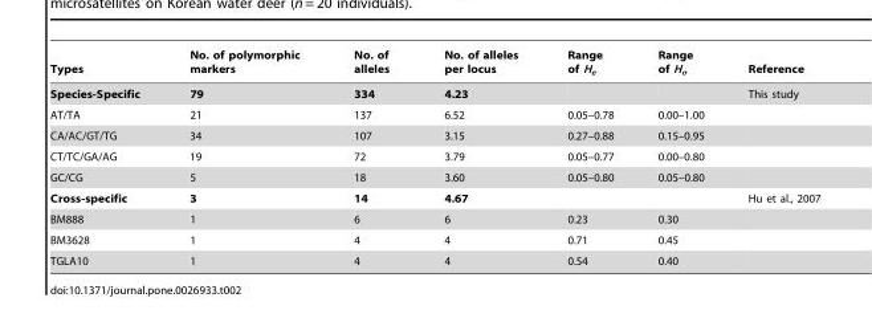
<table><thead><tr><td>Types</td><td>No. of polymorphic markers</td><td>No. of alleles</td><td>No. of alleles per locus</td><td>Range of H<sub>e</sub></td><td>Range of H<sub>o</sub></td><td>Reference</td></tr></thead><tbody><tr><td>Species-Specific</td><td>79</td><td>334</td><td>4.23</td><td></td><td></td><td>This study</td></tr><tr><td>AT/TA</td><td>21</td><td>137</td><td>6.52</td><td>0.05–0.78</td><td>0.00–1.00</td><td></td></tr><tr><td>CA/AC/GT/TG</td><td>34</td><td>107</td><td>3.15</td><td>0.27–0.88</td><td>0.15–0.95</td><td></td></tr><tr><td>CT/TC/GA/AG</td><td>19</td><td>72</td><td>3.79</td><td>0.05–0.77</td><td>0.00–0.80</td><td></td></tr><tr><td>GC/CG</td><td>5</td><td>18</td><td>3.60</td><td>0.05–0.80</td><td>0.05–0.80</td><td></td></tr><tr><td>Cross-specific</td><td>3</td><td>14</td><td>4.67</td><td></td><td></td><td>Hu et al., 2007</td></tr><tr><td>BM888</td><td>1</td><td>6</td><td>6</td><td>0.23</td><td>0.30</td><td></td></tr><tr><td>BM3628</td><td>1</td><td>4</td><td>4</td><td>0.71</td><td>0.45</td><td></td></tr><tr><td>TGLA10</td><td>1</td><td>4</td><td>4</td><td>0.54</td><td>0.40</td><td></td></tr></tbody></table>